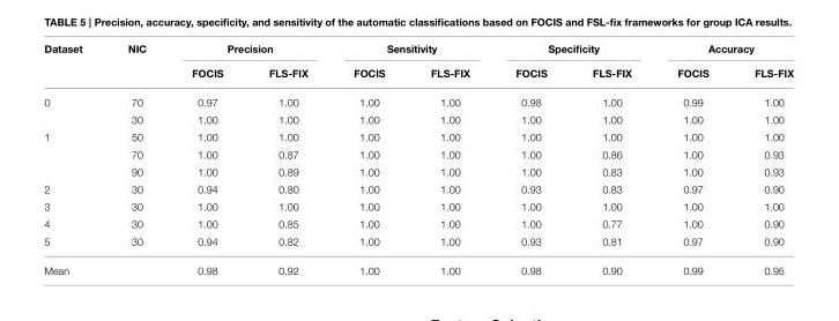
<table><thead><tr><td rowspan="2">Dataset</td><td rowspan="2">NIC</td><td colspan="2">Precision</td><td colspan="2">Sensitivity</td><td colspan="2">Specificity</td><td colspan="2">Accuracy</td></tr><tr><td>FOCIS</td><td>FLS-FIX</td><td>FOCIS</td><td>FLS-FIX</td><td>FOCIS</td><td>FLS-FIX</td><td>FOCIS</td><td>FLS-FIX</td></tr></thead><tbody><tr><td rowspan="2">0</td><td>70</td><td>0.97</td><td>1.00</td><td>1.00</td><td>1.00</td><td>0.98</td><td>1.00</td><td>0.99</td><td>1.00</td></tr><tr><td>30</td><td>1.00</td><td>1.00</td><td>1.00</td><td>1.00</td><td>1.00</td><td>1.00</td><td>1.00</td><td>1.00</td></tr><tr><td rowspan="3">1</td><td>50</td><td>1.00</td><td>1.00</td><td>1.00</td><td>1.00</td><td>1.00</td><td>1.00</td><td>1.00</td><td>1.00</td></tr><tr><td>70</td><td>1.00</td><td>0.87</td><td>1.00</td><td>1.00</td><td>1.00</td><td>0.86</td><td>1.00</td><td>0.93</td></tr><tr><td>90</td><td>1.00</td><td>0.89</td><td>1.00</td><td>1.00</td><td>1.00</td><td>0.83</td><td>1.00</td><td>0.93</td></tr><tr><td>2</td><td>30</td><td>0.94</td><td>0.80</td><td>1.00</td><td>1.00</td><td>0.93</td><td>0.83</td><td>0.97</td><td>0.90</td></tr><tr><td>3</td><td>30</td><td>1.00</td><td>1.00</td><td>1.00</td><td>1.00</td><td>1.00</td><td>1.00</td><td>1.00</td><td>1.00</td></tr><tr><td>4</td><td>30</td><td>1.00</td><td>0.85</td><td>1.00</td><td>1.00</td><td>1.00</td><td>0.77</td><td>1.00</td><td>0.90</td></tr><tr><td>5</td><td>30</td><td>0.94</td><td>0.82</td><td>1.00</td><td>1.00</td><td>0.93</td><td>0.81</td><td>0.97</td><td>0.90</td></tr><tr><td>Mean</td><td></td><td>0.98</td><td>0.92</td><td>1.00</td><td>1.00</td><td>0.98</td><td>0.90</td><td>0.99</td><td>0.95</td></tr></tbody></table>